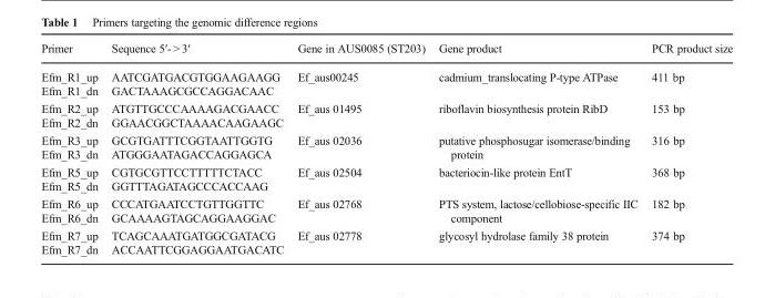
<table><thead><tr><td>Primer</td><td>Sequence 5′- &gt; 3′</td><td>Gene in AUS0085 (ST203)</td><td>Gene product</td><td>PCR product size</td></tr></thead><tbody><tr><td>Efm_R1_up</td><td>AATCGATGACGTGGAAGAAGG</td><td rowspan="2">Ef_aus00245</td><td rowspan="2">cadmium_translocating P-type ATPase</td><td rowspan="2">411 bp</td></tr><tr><td>Efm_R1_dn</td><td>GACTAAAGCGCCAGGACAAC</td></tr><tr><td>Efm_R2_up</td><td>ATGTTGCCCAAAAGACGAACC</td><td rowspan="2">Ef_aus 01495</td><td rowspan="2">riboflavin biosynthesis protein RibD</td><td rowspan="2">153 bp</td></tr><tr><td>Efm_R2_dn</td><td>GGAACGGCTAAAACAAGAAGC</td></tr><tr><td>Efm_R3_up</td><td>GCGTGATTTCGGTAATTGGTG</td><td rowspan="2">Ef_aus 02036</td><td rowspan="2">putative phosphosugar isomerase/binding protein</td><td rowspan="2">316 bp</td></tr><tr><td>Efm_R3_dn</td><td>ATGGGAATAGACCAGGAGCA</td></tr><tr><td>Efm_R5_up</td><td>CGTGCGTTCCTTTTTCTACC</td><td rowspan="2">Ef_aus 02504</td><td rowspan="2">bacteriocin-like protein EntT</td><td rowspan="2">368 bp</td></tr><tr><td>Efm_R5_dn</td><td>GGTTTAGATAGCCCACCAAG</td></tr><tr><td>Efm_R6_up</td><td>CCCATGAATCCTGTTGGTTC</td><td rowspan="2">Ef_aus 02768</td><td rowspan="2">PTS system, lactose/cellobiose-specific IIC component</td><td rowspan="2">182 bp</td></tr><tr><td>Efm_R6_dn</td><td>GCAAAAGTAGCAGGAAGGAC</td></tr><tr><td>Efm_R7_up</td><td>TCAGCAAATGATGGCGATACG</td><td rowspan="2">Ef_aus 02778</td><td rowspan="2">glycosyl hydrolase family 38 protein</td><td rowspan="2">374 bp</td></tr><tr><td>Efm_R7_dn</td><td>ACCAATTCGGAGGAATGACATC</td></tr></tbody></table>